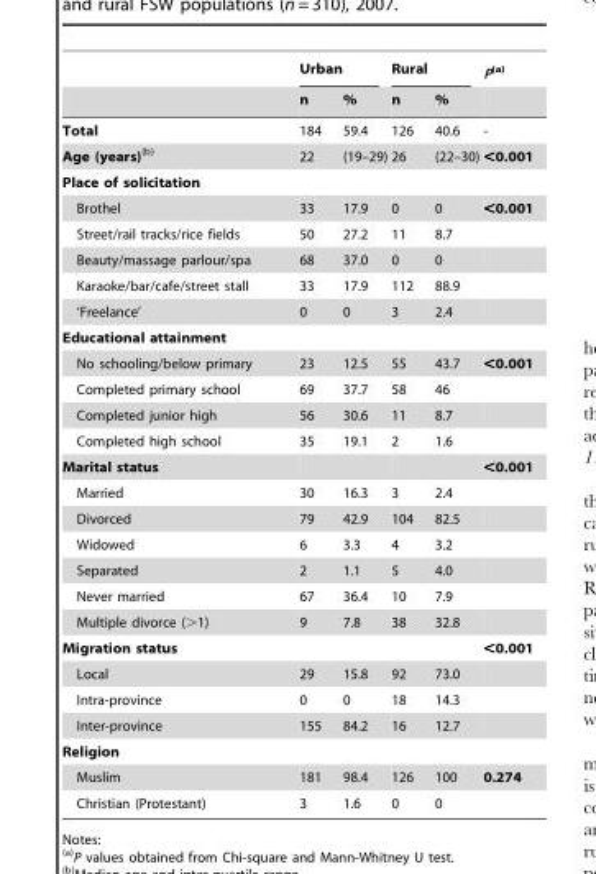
<table><thead><tr><td rowspan="2"></td><td colspan="2">Urban</td><td colspan="2">Rural</td><td rowspan="2">P(a)</td></tr><tr><td>n</td><td>%</td><td>n</td><td>%</td></tr></thead><tbody><tr><td>Total</td><td>184</td><td>59.4</td><td>126</td><td>40.6</td><td>-</td></tr><tr><td>Age (years)(b)</td><td>22</td><td>(19–29)</td><td>26</td><td>(22–30)</td><td>&lt;0.001</td></tr><tr><td colspan="6">Place of solicitation</td></tr><tr><td>Brothel</td><td>33</td><td>17.9</td><td>0</td><td>0</td><td>&lt;0.001</td></tr><tr><td>Street/rail tracks/rice fields</td><td>50</td><td>27.2</td><td>11</td><td>8.7</td><td></td></tr><tr><td>Beauty/massage parlour/spa</td><td>68</td><td>37.0</td><td>0</td><td>0</td><td></td></tr><tr><td>Karaoke/bar/cafe/street stall</td><td>33</td><td>17.9</td><td>112</td><td>88.9</td><td></td></tr><tr><td>‘Freelance’</td><td>0</td><td>0</td><td>3</td><td>2.4</td><td></td></tr><tr><td colspan="6">Educational attainment</td></tr><tr><td>No schooling/below primary</td><td>23</td><td>12.5</td><td>55</td><td>43.7</td><td>&lt;0.001</td></tr><tr><td>Completed primary school</td><td>69</td><td>37.7</td><td>58</td><td>46</td><td></td></tr><tr><td>Completed junior high</td><td>56</td><td>30.6</td><td>11</td><td>8.7</td><td></td></tr><tr><td>Completed high school</td><td>35</td><td>19.1</td><td>2</td><td>1.6</td><td></td></tr><tr><td>Marital status</td><td></td><td></td><td></td><td></td><td>&lt;0.001</td></tr><tr><td>Married</td><td>30</td><td>16.3</td><td>3</td><td>2.4</td><td></td></tr><tr><td>Divorced</td><td>79</td><td>42.9</td><td>104</td><td>82.5</td><td></td></tr><tr><td>Widowed</td><td>6</td><td>3.3</td><td>4</td><td>3.2</td><td></td></tr><tr><td>Separated</td><td>2</td><td>1.1</td><td>5</td><td>4.0</td><td></td></tr><tr><td>Never married</td><td>67</td><td>36.4</td><td>10</td><td>7.9</td><td></td></tr><tr><td>Multiple divorce (&gt;1)</td><td>9</td><td>7.8</td><td>38</td><td>32.8</td><td></td></tr><tr><td>Migration status</td><td></td><td></td><td></td><td></td><td>&lt;0.001</td></tr><tr><td>Local</td><td>29</td><td>15.8</td><td>92</td><td>73.0</td><td></td></tr><tr><td>Intra-province</td><td>0</td><td>0</td><td>18</td><td>14.3</td><td></td></tr><tr><td>Inter-province</td><td>155</td><td>84.2</td><td>16</td><td>12.7</td><td></td></tr><tr><td colspan="6">Religion</td></tr><tr><td>Muslim</td><td>181</td><td>98.4</td><td>126</td><td>100</td><td>0.274</td></tr><tr><td>Christian (Protestant)</td><td>3</td><td>1.6</td><td>0</td><td>0</td><td></td></tr></tbody></table>